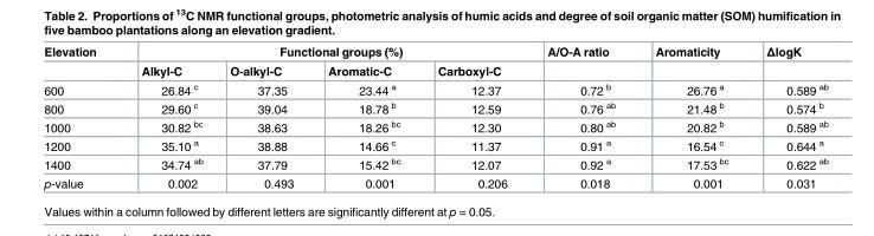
<table><thead><tr><td rowspan="2">Elevation</td><td colspan="4">Functional groups (%)</td><td rowspan="2">A/O-A ratio</td><td rowspan="2">Aromaticity</td><td rowspan="2">ΔlogK</td></tr><tr><td>Alkyl-C</td><td>O-alkyl-C</td><td>Aromatic-C</td><td>Carboxyl-C</td></tr></thead><tbody><tr><td>600</td><td>26.84 <sup>c</sup></td><td>37.35</td><td>23.44 <sup>a</sup></td><td>12.37</td><td>0.72 <sup>b</sup></td><td>26.76 <sup>a</sup></td><td>0.589 <sup>ab</sup></td></tr><tr><td>800</td><td>29.60 <sup>c</sup></td><td>39.04</td><td>18.78 <sup>b</sup></td><td>12.59</td><td>0.76 <sup>ab</sup></td><td>21.48 <sup>b</sup></td><td>0.574 <sup>b</sup></td></tr><tr><td>1000</td><td>30.82 <sup>bc</sup></td><td>38.63</td><td>18.26 <sup>bc</sup></td><td>12.30</td><td>0.80 <sup>ab</sup></td><td>20.82 <sup>b</sup></td><td>0.589 <sup>ab</sup></td></tr><tr><td>1200</td><td>35.10 <sup>a</sup></td><td>38.88</td><td>14.66 <sup>c</sup></td><td>11.37</td><td>0.91 <sup>a</sup></td><td>16.54 <sup>c</sup></td><td>0.644 <sup>a</sup></td></tr><tr><td>1400</td><td>34.74 <sup>ab</sup></td><td>37.79</td><td>15.42 <sup>bc</sup></td><td>12.07</td><td>0.92 <sup>a</sup></td><td>17.53 <sup>bc</sup></td><td>0.622 <sup>ab</sup></td></tr><tr><td>p-value</td><td>0.002</td><td>0.493</td><td>0.001</td><td>0.206</td><td>0.018</td><td>0.001</td><td>0.031</td></tr></tbody></table>